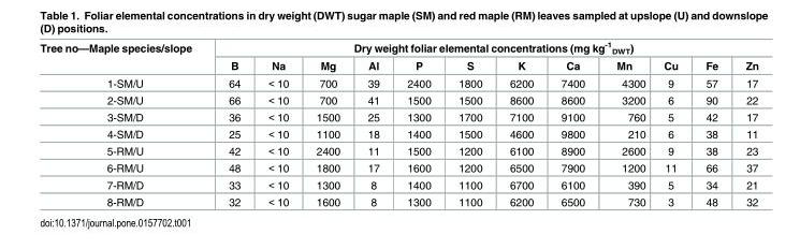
<table><thead><tr><td rowspan="2">Tree no—Maple species/slope</td><td colspan="12">Dry weight foliar elemental concentrations (mg kg<sup>-1</sup> <sub>DWT</sub>)</td></tr><tr><td>B</td><td>Na</td><td>Mg</td><td>Al</td><td>P</td><td>S</td><td>K</td><td>Ca</td><td>Mn</td><td>Cu</td><td>Fe</td><td>Zn</td></tr></thead><tbody><tr><td>1-SM/U</td><td>64</td><td>&lt; 10</td><td>700</td><td>39</td><td>2400</td><td>1800</td><td>6200</td><td>7400</td><td>4300</td><td>9</td><td>57</td><td>17</td></tr><tr><td>2-SM/U</td><td>66</td><td>&lt; 10</td><td>700</td><td>41</td><td>1500</td><td>1500</td><td>8600</td><td>8600</td><td>3200</td><td>6</td><td>90</td><td>22</td></tr><tr><td>3-SM/D</td><td>36</td><td>&lt; 10</td><td>1500</td><td>25</td><td>1300</td><td>1700</td><td>7100</td><td>9100</td><td>760</td><td>5</td><td>42</td><td>17</td></tr><tr><td>4-SM/D</td><td>25</td><td>&lt; 10</td><td>1100</td><td>18</td><td>1400</td><td>1500</td><td>4600</td><td>9800</td><td>210</td><td>6</td><td>38</td><td>11</td></tr><tr><td>5-RM/U</td><td>42</td><td>&lt; 10</td><td>2400</td><td>11</td><td>1500</td><td>1200</td><td>6100</td><td>8900</td><td>2600</td><td>9</td><td>38</td><td>23</td></tr><tr><td>6-RM/U</td><td>48</td><td>&lt; 10</td><td>1800</td><td>17</td><td>1600</td><td>1200</td><td>6500</td><td>7900</td><td>1200</td><td>11</td><td>66</td><td>37</td></tr><tr><td>7-RM/D</td><td>33</td><td>&lt; 10</td><td>1300</td><td>8</td><td>1400</td><td>1100</td><td>6700</td><td>6100</td><td>390</td><td>5</td><td>34</td><td>21</td></tr><tr><td>8-RM/D</td><td>32</td><td>&lt; 10</td><td>1600</td><td>8</td><td>1300</td><td>1100</td><td>6200</td><td>6500</td><td>730</td><td>3</td><td>48</td><td>32</td></tr></tbody></table>